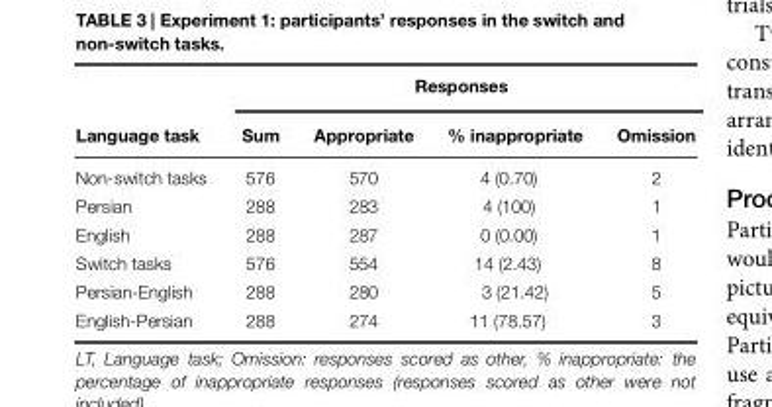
<table><thead><tr><td rowspan="2">Language task</td><td colspan="4">Responses</td></tr><tr><td>Sum</td><td>Appropriate</td><td>% inappropriate</td><td>Omission</td></tr></thead><tbody><tr><td>Non-switch tasks</td><td>576</td><td>570</td><td>4 (0.70)</td><td>2</td></tr><tr><td>Persian</td><td>288</td><td>283</td><td>4 (100)</td><td>1</td></tr><tr><td>English</td><td>288</td><td>287</td><td>0 (0.00)</td><td>1</td></tr><tr><td>Switch tasks</td><td>576</td><td>554</td><td>14 (2.43)</td><td>8</td></tr><tr><td>Persian-English</td><td>288</td><td>280</td><td>3 (21.42)</td><td>5</td></tr><tr><td>English-Persian</td><td>288</td><td>274</td><td>11 (78.57)</td><td>3</td></tr></tbody></table>